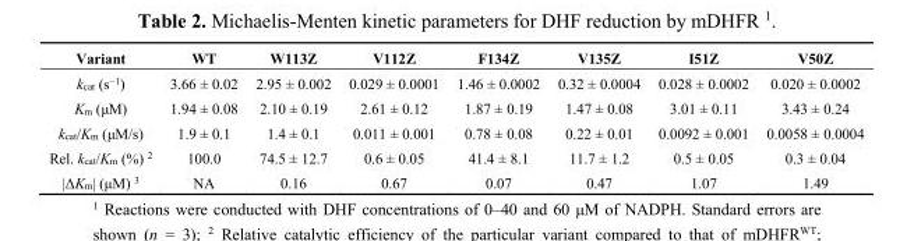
<table><thead><tr><td>Variant</td><td>WT</td><td>W113Z</td><td>V112Z</td><td>F134Z</td><td>V135Z</td><td>I51Z</td><td>V50Z</td></tr></thead><tbody><tr><td>k<sub>cat</sub> (s<sup>−1</sup>)</td><td>3.66 ± 0.02</td><td>2.95 ± 0.002</td><td>0.029 ± 0.0001</td><td>1.46 ± 0.0002</td><td>0.32 ± 0.0004</td><td>0.028 ± 0.0002</td><td>0.020 ± 0.0002</td></tr><tr><td>K<sub>m</sub> (μM)</td><td>1.94 ± 0.08</td><td>2.10 ± 0.19</td><td>2.61 ± 0.12</td><td>1.87 ± 0.19</td><td>1.47 ± 0.08</td><td>3.01 ± 0.11</td><td>3.43 ± 0.24</td></tr><tr><td>k<sub>cat</sub>/K<sub>m</sub> (μM/s)</td><td>1.9 ± 0.1</td><td>1.4 ± 0.1</td><td>0.011 ± 0.001</td><td>0.78 ± 0.08</td><td>0.22 ± 0.01</td><td>0.0092 ± 0.001</td><td>0.0058 ± 0.0004</td></tr><tr><td>Rel. k<sub>cat</sub>/K<sub>m</sub> (%) <sup>2</sup></td><td>100.0</td><td>74.5 ± 12.7</td><td>0.6 ± 0.05</td><td>41.4 ± 8.1</td><td>11.7 ± 1.2</td><td>0.5 ± 0.05</td><td>0.3 ± 0.04</td></tr><tr><td>|ΔK<sub>m</sub>| (μM) <sup>3</sup></td><td>NA</td><td>0.16</td><td>0.67</td><td>0.07</td><td>0.47</td><td>1.07</td><td>1.49</td></tr></tbody></table>